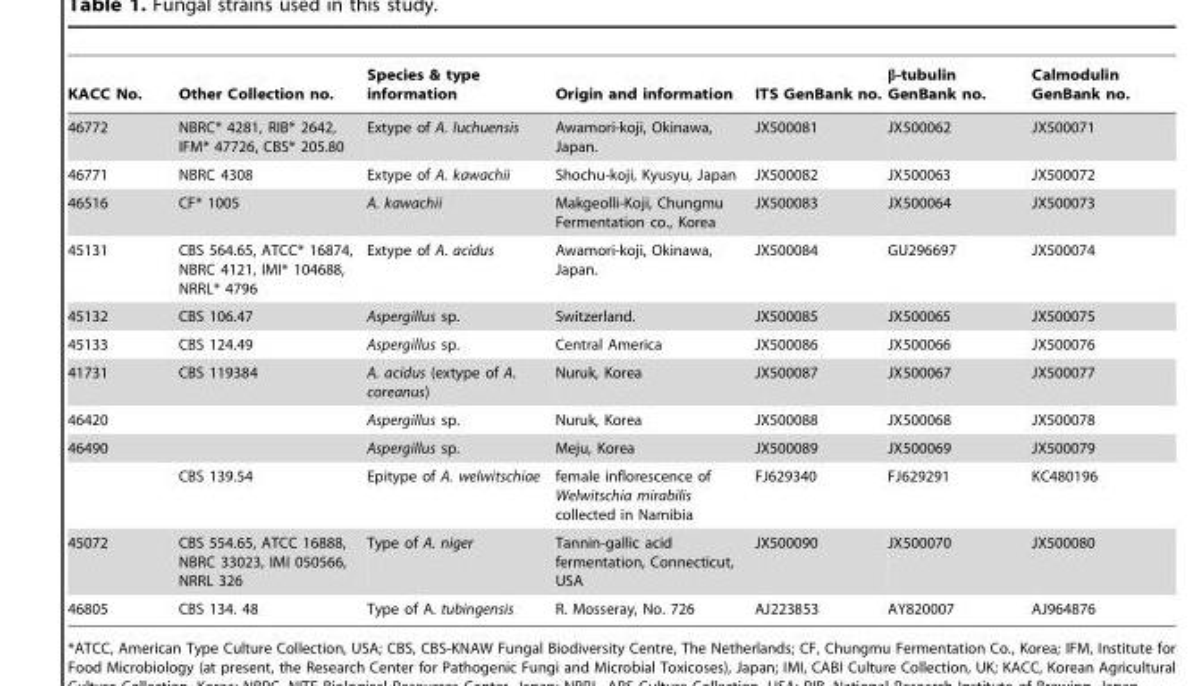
<table><thead><tr><td>KACC No.</td><td>Other Collection no.</td><td>Species &amp; type information</td><td>Origin and information</td><td>ITS GenBank no.</td><td>β-tubulin GenBank no.</td><td>Calmodulin GenBank no.</td></tr></thead><tbody><tr><td>46772</td><td>NBRC* 4281, RIB* 2642, IFM* 47726, CBS* 205.80</td><td>Extype of A. luchuensis</td><td>Awamori-koji, Okinawa, Japan.</td><td>JX500081</td><td>JX500062</td><td>JX500071</td></tr><tr><td>46771</td><td>NBRC 4308</td><td>Extype of A. kawachii</td><td>Shochu-koji, Kyusyu, Japan</td><td>JX500082</td><td>JX500063</td><td>JX500072</td></tr><tr><td>46516</td><td>CF* 1005</td><td>A. kawachii</td><td>Makgeolli-Koji, Chungmu Fermentation co., Korea</td><td>JX500083</td><td>JX500064</td><td>JX500073</td></tr><tr><td>45131</td><td>CBS 564.65, ATCC* 16874, NBRC 4121, IMI* 104688, NRRL* 4796</td><td>Extype of A. acidus</td><td>Awamori-koji, Okinawa, Japan.</td><td>JX500084</td><td>GU296697</td><td>JX500074</td></tr><tr><td>45132</td><td>CBS 106.47</td><td>Aspergillus sp.</td><td>Switzerland.</td><td>JX500085</td><td>JX500065</td><td>JX500075</td></tr><tr><td>45133</td><td>CBS 124.49</td><td>Aspergillus sp.</td><td>Central America</td><td>JX500086</td><td>JX500066</td><td>JX500076</td></tr><tr><td>41731</td><td>CBS 119384</td><td>A. acidus (extype of A. coreanus)</td><td>Nuruk, Korea</td><td>JX500087</td><td>JX500067</td><td>JX500077</td></tr><tr><td>46420</td><td></td><td>Aspergillus sp.</td><td>Nuruk, Korea</td><td>JX500088</td><td>JX500068</td><td>JX500078</td></tr><tr><td rowspan="2">46490</td><td></td><td>Aspergillus sp.</td><td>Meju, Korea</td><td>JX500089</td><td>JX500069</td><td>JX500079</td></tr><tr><td>CBS 139.54</td><td>Epitype of A. welwitschiae</td><td>female inflorescence of Welwitschia mirabilis collected in Namibia</td><td>FJ629340</td><td>FJ629291</td><td>KC480196</td></tr><tr><td>45072</td><td>CBS 554.65, ATCC 16888, NBRC 33023, IMI 050566, NRRL 326</td><td>Type of A. niger</td><td>Tannin-gallic acid fermentation, Connecticut, USA</td><td>JX500090</td><td>JX500070</td><td>JX500080</td></tr><tr><td>46805</td><td>CBS 134. 48</td><td>Type of A. tubingensis</td><td>R. Mosseray, No. 726</td><td>AJ223853</td><td>AY820007</td><td>AJ964876</td></tr></tbody></table>